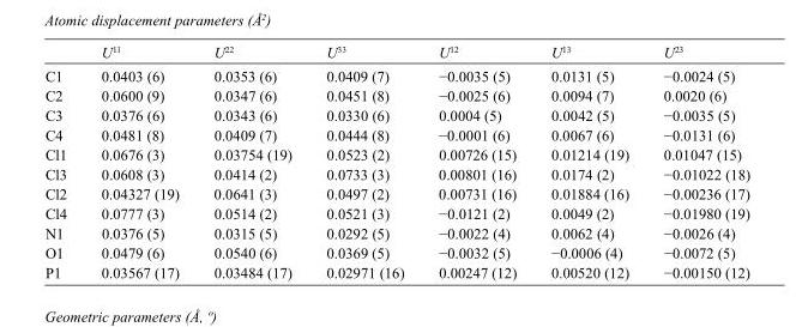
<table><thead><tr><td></td><td>U<sup>11</sup></td><td>U<sup>22</sup></td><td>U<sup>33</sup></td><td>U<sup>12</sup></td><td>U<sup>13</sup></td><td>U<sup>23</sup></td></tr></thead><tbody><tr><td>C1</td><td>0.0403 (6)</td><td>0.0353 (6)</td><td>0.0409 (7)</td><td>−0.0035 (5)</td><td>0.0131 (5)</td><td>−0.0024 (5)</td></tr><tr><td>C2</td><td>0.0600 (9)</td><td>0.0347 (6)</td><td>0.0451 (8)</td><td>−0.0025 (6)</td><td>0.0094 (7)</td><td>0.0020 (6)</td></tr><tr><td>C3</td><td>0.0376 (6)</td><td>0.0343 (6)</td><td>0.0330 (6)</td><td>0.0004 (5)</td><td>0.0042 (5)</td><td>−0.0035 (5)</td></tr><tr><td>C4</td><td>0.0481 (8)</td><td>0.0409 (7)</td><td>0.0444 (8)</td><td>−0.0001 (6)</td><td>0.0067 (6)</td><td>−0.0131 (6)</td></tr><tr><td>Cl1</td><td>0.0676 (3)</td><td>0.03754 (19)</td><td>0.0523 (2)</td><td>0.00726 (15)</td><td>0.01214 (19)</td><td>0.01047 (15)</td></tr><tr><td>Cl3</td><td>0.0608 (3)</td><td>0.0414 (2)</td><td>0.0733 (3)</td><td>0.00801 (16)</td><td>0.0174 (2)</td><td>−0.01022 (18)</td></tr><tr><td>Cl2</td><td>0.04327 (19)</td><td>0.0641 (3)</td><td>0.0497 (2)</td><td>0.00731 (16)</td><td>0.01884 (16)</td><td>−0.00236 (17)</td></tr><tr><td>Cl4</td><td>0.0777 (3)</td><td>0.0514 (2)</td><td>0.0521 (3)</td><td>−0.0121 (2)</td><td>0.0049 (2)</td><td>−0.01980 (19)</td></tr><tr><td>N1</td><td>0.0376 (5)</td><td>0.0315 (5)</td><td>0.0292 (5)</td><td>−0.0022 (4)</td><td>0.0062 (4)</td><td>−0.0026 (4)</td></tr><tr><td>O1</td><td>0.0479 (6)</td><td>0.0540 (6)</td><td>0.0369 (5)</td><td>−0.0032 (5)</td><td>−0.0006 (4)</td><td>−0.0072 (5)</td></tr><tr><td>P1</td><td>0.03567 (17)</td><td>0.03484 (17)</td><td>0.02971 (16)</td><td>0.00247 (12)</td><td>0.00520 (12)</td><td>−0.00150 (12)</td></tr></tbody></table>